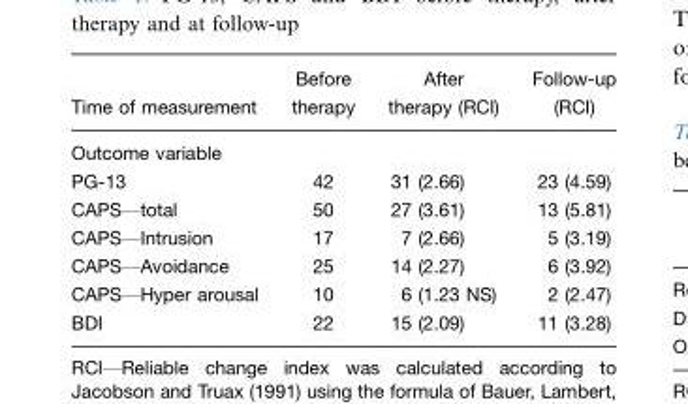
<table><thead><tr><td>Time of measurement</td><td>Before therapy</td><td>After therapy (RCI)</td><td>Follow-up (RCI)</td></tr></thead><tbody><tr><td colspan="4">Outcome variable</td></tr><tr><td>PG-13</td><td>42</td><td>31 (2.66)</td><td>23 (4.59)</td></tr><tr><td>CAPS*total</td><td>50</td><td>27 (3.61)</td><td>13 (5.81)</td></tr><tr><td>CAPS*Intrusion</td><td>17</td><td>7 (2.66)</td><td>5 (3.19)</td></tr><tr><td>CAPS*Avoidance</td><td>25</td><td>14 (2.27)</td><td>6 (3.92)</td></tr><tr><td>CAPS*Hyper arousal</td><td>10</td><td>6 (1.23 NS)</td><td>2 (2.47)</td></tr><tr><td>BDI</td><td>22</td><td>15 (2.09)</td><td>11 (3.28)</td></tr></tbody></table>